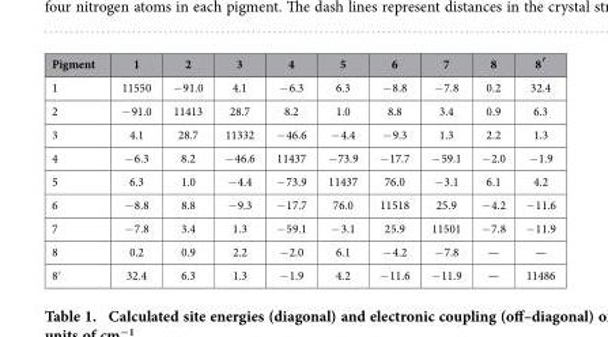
<table><thead><tr><td>Pigment</td><td>1</td><td>2</td><td>3</td><td>4</td><td>5</td><td>6</td><td>7</td><td>8</td><td>8′</td></tr></thead><tbody><tr><td>1</td><td>11550</td><td>− 91.0</td><td>4.1</td><td>− 6.3</td><td>6.3</td><td>− 8.8</td><td>− 7.8</td><td>0.2</td><td>32.4</td></tr><tr><td>2</td><td>− 91.0</td><td>11413</td><td>28.7</td><td>8.2</td><td>1.0</td><td>8.8</td><td>3.4</td><td>0.9</td><td>6.3</td></tr><tr><td>3</td><td>4.1</td><td>28.7</td><td>11332</td><td>− 46.6</td><td>− 4.4</td><td>− 9.3</td><td>1.3</td><td>2.2</td><td>1.3</td></tr><tr><td>4</td><td>− 6.3</td><td>8.2</td><td>− 46.6</td><td>11437</td><td>− 73.9</td><td>− 17.7</td><td>− 59.1</td><td>− 2.0</td><td>− 1.9</td></tr><tr><td>5</td><td>6.3</td><td>1.0</td><td>− 4.4</td><td>− 73.9</td><td>11437</td><td>76.0</td><td>− 3.1</td><td>6.1</td><td>4.2</td></tr><tr><td>6</td><td>− 8.8</td><td>8.8</td><td>− 9.3</td><td>− 17.7</td><td>76.0</td><td>11518</td><td>25.9</td><td>− 4.2</td><td>− 11.6</td></tr><tr><td>7</td><td>− 7.8</td><td>3.4</td><td>1.3</td><td>− 59.1</td><td>− 3.1</td><td>25.9</td><td>11501</td><td>− 7.8</td><td>− 11.9</td></tr><tr><td>8</td><td>0.2</td><td>0.9</td><td>2.2</td><td>− 2.0</td><td>6.1</td><td>− 4.2</td><td>− 7.8</td><td>—</td><td>—</td></tr><tr><td>8′</td><td>32.4</td><td>6.3</td><td>1.3</td><td>− 1.9</td><td>4.2</td><td>− 11.6</td><td>− 11.9</td><td>—</td><td>11486</td></tr></tbody></table>